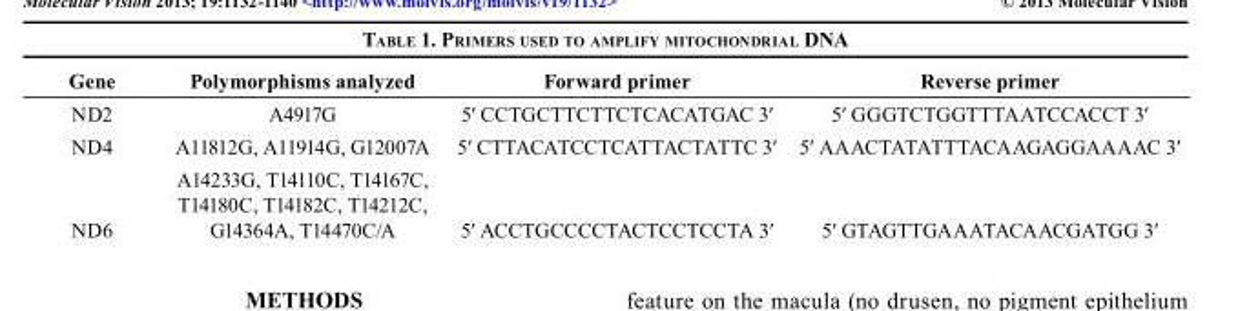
<table><thead><tr><td>Gene</td><td>Polymorphisms analyzed</td><td>Forward primer</td><td>Reverse primer</td></tr></thead><tbody><tr><td>ND2</td><td>A4917G</td><td>5′ CCTGCTTCTTCTCACATGAC 3′</td><td>5′ GGGTCTGGTTTAATCCACCT 3′</td></tr><tr><td>ND4</td><td>A11812G, A11914G, G12007A</td><td>5′ CTTACATCCTCATTACTATTC 3′</td><td>5′ AAACTATATTTACAAGAGGAAAAC 3′</td></tr><tr><td>ND6</td><td>A14233G, T14110C, T14167C, T14180C, T14182C, T14212C, G14364A, T14470C/A</td><td>5′ ACCTGCCCCTACTCCTCCTA 3′</td><td>5′ GTAGTTGAAATACAACGATGG 3′</td></tr></tbody></table>